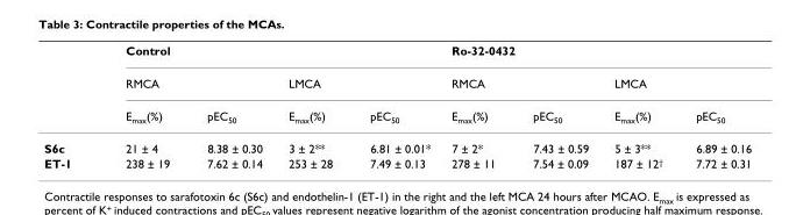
<table><thead><tr><td rowspan="3"></td><td rowspan="3">Control RMCA Emax(%)</td><td rowspan="3">pEC50</td><td rowspan="3">LMCA Emax(%)</td><td rowspan="3">pEC50</td><td rowspan="3">Ro-32-0432 RMCA Emax(%)</td><td rowspan="3">pEC50</td><td rowspan="3">LMCA Emax(%)</td><td rowspan="3">pEC50</td></tr><tr></tr><tr></tr></thead><tbody><tr><td>S6c</td><td>21 ± 4</td><td>8.38 ± 0.30</td><td>3 ± 2**</td><td>6.81 ± 0.01*</td><td>7 ± 2*</td><td>7.43 ± 0.59</td><td>5 ± 3**</td><td>6.89 ± 0.16</td></tr><tr><td>ET-1</td><td>238 ± 19</td><td>7.62 ± 0.14</td><td>253 ± 28</td><td>7.49 ± 0.13</td><td>278 ± 11</td><td>7.54 ± 0.09</td><td>187 ± 12†</td><td>7.72 ± 0.31</td></tr></tbody></table>